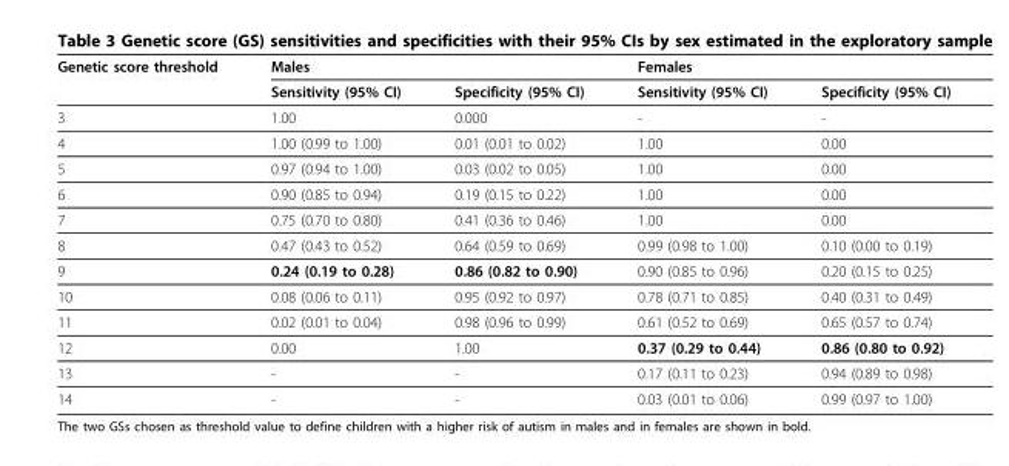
<table><thead><tr><td rowspan="2">Genetic score threshold</td><td colspan="2">Males</td><td colspan="2">Females</td></tr><tr><td>Sensitivity (95% CI)</td><td>Specificity (95% CI)</td><td>Sensitivity (95% CI)</td><td>Specificity (95% CI)</td></tr></thead><tbody><tr><td>3</td><td>1.00</td><td>0.000</td><td>-</td><td>-</td></tr><tr><td>4</td><td>1.00 (0.99 to 1.00)</td><td>0.01 (0.01 to 0.02)</td><td>1.00</td><td>0.00</td></tr><tr><td>5</td><td>0.97 (0.94 to 1.00)</td><td>0.03 (0.02 to 0.05)</td><td>1.00</td><td>0.00</td></tr><tr><td>6</td><td>0.90 (0.85 to 0.94)</td><td>0.19 (0.15 to 0.22)</td><td>1.00</td><td>0.00</td></tr><tr><td>7</td><td>0.75 (0.70 to 0.80)</td><td>0.41 (0.36 to 0.46)</td><td>1.00</td><td>0.00</td></tr><tr><td>8</td><td>0.47 (0.43 to 0.52)</td><td>0.64 (0.59 to 0.69)</td><td>0.99 (0.98 to 1.00)</td><td>0.10 (0.00 to 0.19)</td></tr><tr><td>9</td><td>0.24 (0.19 to 0.28)</td><td>0.86 (0.82 to 0.90)</td><td>0.90 (0.85 to 0.96)</td><td>0.20 (0.15 to 0.25)</td></tr><tr><td>10</td><td>0.08 (0.06 to 0.11)</td><td>0.95 (0.92 to 0.97)</td><td>0.78 (0.71 to 0.85)</td><td>0.40 (0.31 to 0.49)</td></tr><tr><td>11</td><td>0.02 (0.01 to 0.04)</td><td>0.98 (0.96 to 0.99)</td><td>0.61 (0.52 to 0.69)</td><td>0.65 (0.57 to 0.74)</td></tr><tr><td>12</td><td>0.00</td><td>1.00</td><td>0.37 (0.29 to 0.44)</td><td>0.86 (0.80 to 0.92)</td></tr><tr><td>13</td><td>-</td><td>-</td><td>0.17 (0.11 to 0.23)</td><td>0.94 (0.89 to 0.98)</td></tr><tr><td>14</td><td>-</td><td>-</td><td>0.03 (0.01 to 0.06)</td><td>0.99 (0.97 to 1.00)</td></tr></tbody></table>